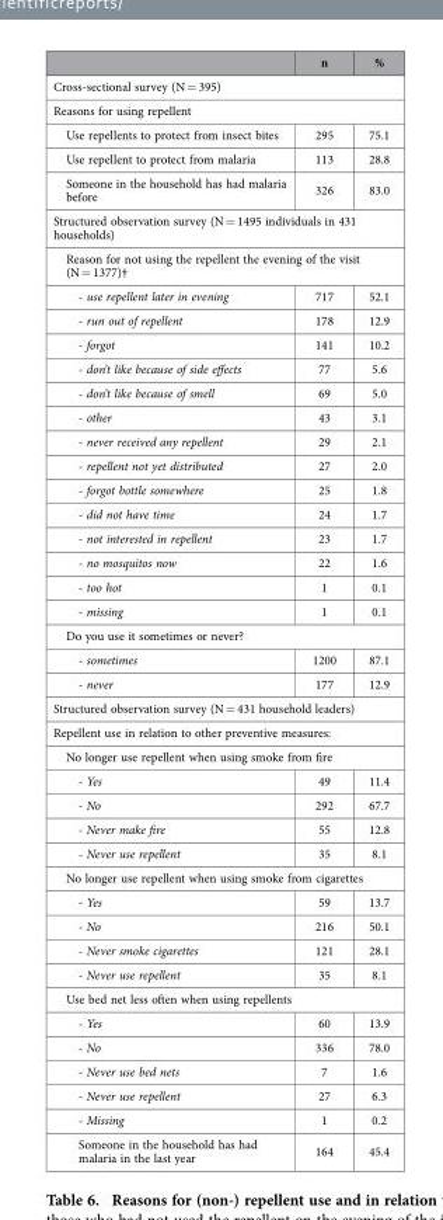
<table><thead><tr><td></td><td>n</td><td>%</td></tr></thead><tbody><tr><td colspan="3">Cross-sectional survey (N = 395)</td></tr><tr><td colspan="3">Reasons for using repellent</td></tr><tr><td>Use repellents to protect from insect bites</td><td>295</td><td>75.1</td></tr><tr><td>Use repellent to protect from malaria</td><td>113</td><td>28.8</td></tr><tr><td>Someone in the household has had malaria before</td><td>326</td><td>83.0</td></tr><tr><td colspan="3">Structured observation survey (N = 1495 individuals in 431 households)</td></tr><tr><td colspan="3">Reason for not using the repellent the evening of the visit (N = 1377)†</td></tr><tr><td>- use repellent later in evening</td><td>717</td><td>52.1</td></tr><tr><td>- run out of repellent</td><td>178</td><td>12.9</td></tr><tr><td>- forgot</td><td>141</td><td>10.2</td></tr><tr><td>- don’t like because of side effects</td><td>77</td><td>5.6</td></tr><tr><td>- don’t like because of smell</td><td>69</td><td>5.0</td></tr><tr><td>- other</td><td>43</td><td>3.1</td></tr><tr><td>- never received any repellent</td><td>29</td><td>2.1</td></tr><tr><td>- repellent not yet distributed</td><td>27</td><td>2.0</td></tr><tr><td>- forgot bottle somewhere</td><td>25</td><td>1.8</td></tr><tr><td>- did not have time</td><td>24</td><td>1.7</td></tr><tr><td>- not interested in repellent</td><td>23</td><td>1.7</td></tr><tr><td>- no mosquitos now</td><td>22</td><td>1.6</td></tr><tr><td>- too hot</td><td>1</td><td>0.1</td></tr><tr><td>- missing</td><td>1</td><td>0.1</td></tr><tr><td colspan="3">Do you use it sometimes or never?</td></tr><tr><td>- sometimes</td><td>1200</td><td>87.1</td></tr><tr><td>- never</td><td>177</td><td>12.9</td></tr><tr><td colspan="3">Structured observation survey (N = 431 household leaders)</td></tr><tr><td colspan="3">Repellent use in relation to other preventive measures:</td></tr><tr><td colspan="3">No longer use repellent when using smoke from fire</td></tr><tr><td>- Yes</td><td>49</td><td>11.4</td></tr><tr><td>- No</td><td>292</td><td>67.7</td></tr><tr><td>- Never make fire</td><td>55</td><td>12.8</td></tr><tr><td>- Never use repellent</td><td>35</td><td>8.1</td></tr><tr><td colspan="3">No longer use repellent when using smoke from cigarettes</td></tr><tr><td>- Yes</td><td>59</td><td>13.7</td></tr><tr><td>- No</td><td>216</td><td>50.1</td></tr><tr><td>- Never smoke cigarettes</td><td>121</td><td>28.1</td></tr><tr><td>- Never use repellent</td><td>35</td><td>8.1</td></tr><tr><td colspan="3">Use bed net less often when using repellents</td></tr><tr><td>- Yes</td><td>60</td><td>13.9</td></tr><tr><td>- No</td><td>336</td><td>78.0</td></tr><tr><td>- Never use bed nets</td><td>7</td><td>1.6</td></tr><tr><td>- Never use repellent</td><td>27</td><td>6.3</td></tr><tr><td>- Missing</td><td>1</td><td>0.2</td></tr><tr><td>Someone in the household has had malaria in the last year</td><td>164</td><td>45.4</td></tr></tbody></table>